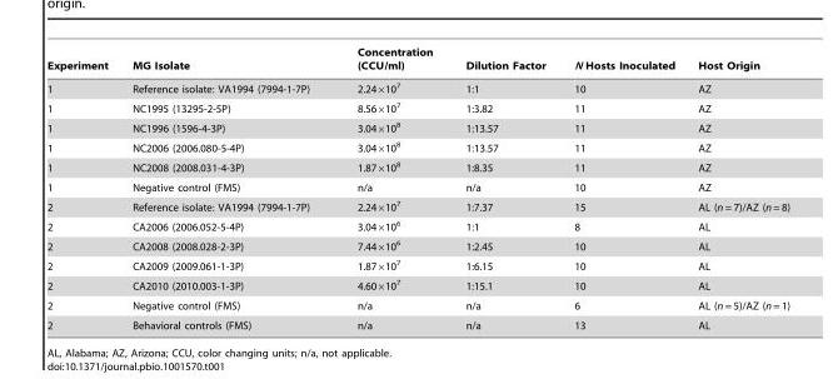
<table><thead><tr><td>Experiment</td><td>MG Isolate</td><td>Concentration (CCU/ml)</td><td>Dilution Factor</td><td>N Hosts Inoculated</td><td>Host Origin</td></tr></thead><tbody><tr><td>1</td><td>Reference isolate: VA1994 (7994-1-7P)</td><td>2.24×10<sup>7</sup></td><td>1:1</td><td>10</td><td>AZ</td></tr><tr><td>1</td><td>NC1995 (13295-2-5P)</td><td>8.56×10<sup>7</sup></td><td>1:3.82</td><td>11</td><td>AZ</td></tr><tr><td>1</td><td>NC1996 (1596-4-3P)</td><td>3.04×10<sup>8</sup></td><td>1:13.57</td><td>11</td><td>AZ</td></tr><tr><td>1</td><td>NC2006 (2006.080-5-4P)</td><td>3.04×10<sup>8</sup></td><td>1:13.57</td><td>11</td><td>AZ</td></tr><tr><td>1</td><td>NC2008 (2008.031-4-3P)</td><td>1.87×10<sup>8</sup></td><td>1:8.35</td><td>11</td><td>AZ</td></tr><tr><td>1</td><td>Negative control (FMS)</td><td>n/a</td><td>n/a</td><td>10</td><td>AZ</td></tr><tr><td>2</td><td>Reference isolate: VA1994 (7994-1-7P)</td><td>2.24×10<sup>7</sup></td><td>1:7.37</td><td>15</td><td>AL (n = 7)/AZ (n = 8)</td></tr><tr><td>2</td><td>CA2006 (2006.052-5-4P)</td><td>3.04×10<sup>6</sup></td><td>1:1</td><td>8</td><td>AL</td></tr><tr><td>2</td><td>CA2008 (2008.028-2-3P)</td><td>7.44×10<sup>6</sup></td><td>1:2.45</td><td>10</td><td>AL</td></tr><tr><td>2</td><td>CA2009 (2009.061-1-3P)</td><td>1.87×10<sup>7</sup></td><td>1:6.15</td><td>10</td><td>AL</td></tr><tr><td>2</td><td>CA2010 (2010.003-1-3P)</td><td>4.60×10<sup>7</sup></td><td>1:15.1</td><td>10</td><td>AL</td></tr><tr><td>2</td><td>Negative control (FMS)</td><td>n/a</td><td>n/a</td><td>6</td><td>AL (n = 5)/AZ (n = 1)</td></tr><tr><td>2</td><td>Behavioral controls (FMS)</td><td>n/a</td><td>n/a</td><td>13</td><td>AL</td></tr></tbody></table>